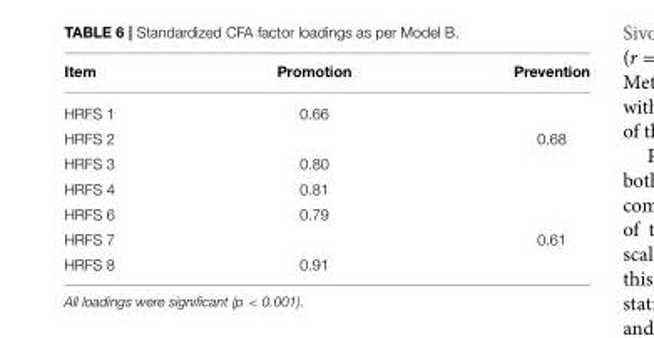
<table><thead><tr><td>Item</td><td>Promotion</td><td>Prevention</td></tr></thead><tbody><tr><td>HRFS 1</td><td>0.66</td><td></td></tr><tr><td>HRFS 2</td><td></td><td>0.68</td></tr><tr><td>HRFS 3</td><td>0.80</td><td></td></tr><tr><td>HRFS 4</td><td>0.81</td><td></td></tr><tr><td>HRFS 6</td><td>0.79</td><td></td></tr><tr><td>HRFS 7</td><td></td><td>0.61</td></tr><tr><td>HRFS 8</td><td>0.91</td><td></td></tr></tbody></table>